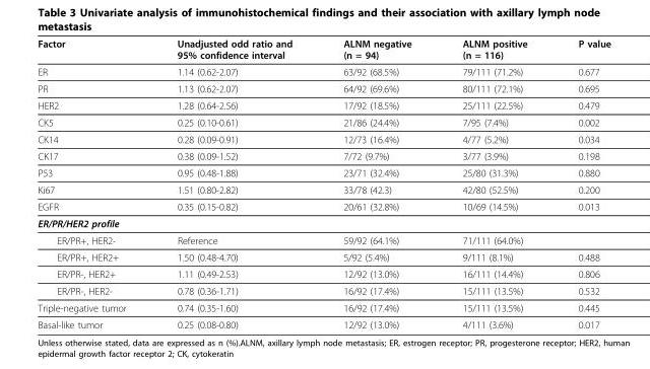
<table><thead><tr><td>Factor</td><td>Unadjusted odd ratio and 95% confidence interval</td><td>ALNM negative (n = 94)</td><td>ALNM positive (n = 116)</td><td>P value</td></tr></thead><tbody><tr><td>ER</td><td>1.14 (0.62-2.07)</td><td>63/92 (68.5%)</td><td>79/111 (71.2%)</td><td>0.677</td></tr><tr><td>PR</td><td>1.13 (0.62-2.07)</td><td>64/92 (69.6%)</td><td>80/111 (72.1%)</td><td>0.695</td></tr><tr><td>HER2</td><td>1.28 (0.64-2.56)</td><td>17/92 (18.5%)</td><td>25/111 (22.5%)</td><td>0.479</td></tr><tr><td>CK5</td><td>0.25 (0.10-0.61)</td><td>21/86 (24.4%)</td><td>7/95 (7.4%)</td><td>0.002</td></tr><tr><td>CK14</td><td>0.28 (0.09-0.91)</td><td>12/73 (16.4%)</td><td>4/77 (5.2%)</td><td>0.034</td></tr><tr><td>CK17</td><td>0.38 (0.09-1.52)</td><td>7/72 (9.7%)</td><td>3/77 (3.9%)</td><td>0.198</td></tr><tr><td>P53</td><td>0.95 (0.48-1.88)</td><td>23/71 (32.4%)</td><td>25/80 (31.3%)</td><td>0.880</td></tr><tr><td>Ki67</td><td>1.51 (0.80-2.82)</td><td>33/78 (42.3)</td><td>42/80 (52.5%)</td><td>0.200</td></tr><tr><td>EGFR</td><td>0.35 (0.15-0.82)</td><td>20/61 (32.8%)</td><td>10/69 (14.5%)</td><td>0.013</td></tr><tr><td colspan="5">ER/PR/HER2 profile</td></tr><tr><td>ER/PR+, HER2-</td><td>Reference</td><td>59/92 (64.1%)</td><td>71/111 (64.0%)</td><td></td></tr><tr><td>ER/PR+, HER2+</td><td>1.50 (0.48-4.70)</td><td>5/92 (5.4%)</td><td>9/111 (8.1%)</td><td>0.488</td></tr><tr><td>ER/PR-, HER2+</td><td>1.11 (0.49-2.53)</td><td>12/92 (13.0%)</td><td>16/111 (14.4%)</td><td>0.806</td></tr><tr><td>ER/PR-, HER2-</td><td>0.78 (0.36-1.71)</td><td>16/92 (17.4%)</td><td>15/111 (13.5%)</td><td>0.532</td></tr><tr><td>Triple-negative tumor</td><td>0.74 (0.35-1.60)</td><td>16/92 (17.4%)</td><td>15/111 (13.5%)</td><td>0.445</td></tr><tr><td>Basal-like tumor</td><td>0.25 (0.08-0.80)</td><td>12/92 (13.0%)</td><td>4/111 (3.6%)</td><td>0.017</td></tr></tbody></table>